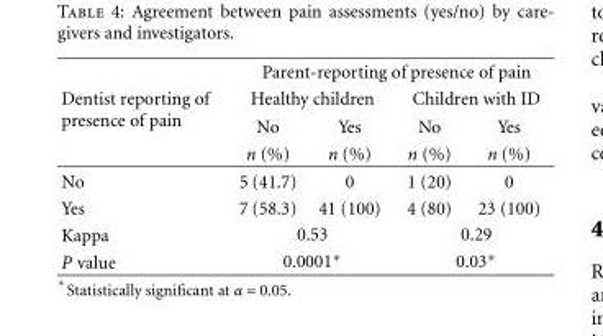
<table><thead><tr><td rowspan="4">Dentist reporting of presence of pain</td><td colspan="4">Parent-reporting of presence of pain</td></tr><tr><td colspan="2">Healthy children</td><td colspan="2">Children with ID</td></tr><tr><td rowspan="2">No n (%)</td><td rowspan="2">Yes n (%)</td><td rowspan="2">No n (%)</td><td rowspan="2">Yes n (%)</td></tr><tr></tr></thead><tbody><tr><td>No</td><td>5 (41.7)</td><td>0</td><td>1 (20)</td><td>0</td></tr><tr><td>Yes</td><td>7 (58.3)</td><td>41 (100)</td><td>4 (80)</td><td>23 (100)</td></tr><tr><td>Kappa</td><td colspan="2">0.53</td><td colspan="2">0.29</td></tr><tr><td>P value</td><td colspan="2">0.0001∗</td><td colspan="2">0.03∗</td></tr></tbody></table>